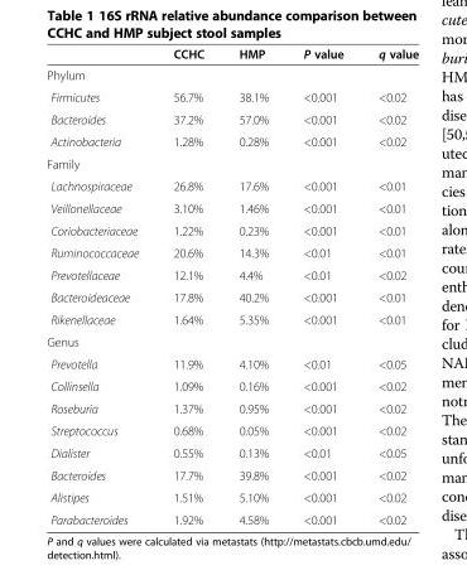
<table><thead><tr><td></td><td>CCHC</td><td>HMP</td><td>P value</td><td>q value</td></tr></thead><tbody><tr><td colspan="5">Phylum</td></tr><tr><td>Firmicutes</td><td>56.7%</td><td>38.1%</td><td>&lt;0.001</td><td>&lt;0.02</td></tr><tr><td>Bacteroides</td><td>37.2%</td><td>57.0%</td><td>&lt;0.001</td><td>&lt;0.02</td></tr><tr><td>Actinobacteria</td><td>1.28%</td><td>0.28%</td><td>&lt;0.001</td><td>&lt;0.02</td></tr><tr><td colspan="5">Family</td></tr><tr><td>Lachnospiraceae</td><td>26.8%</td><td>17.6%</td><td>&lt;0.001</td><td>&lt;0.01</td></tr><tr><td>Veillonellaceae</td><td>3.10%</td><td>1.46%</td><td>&lt;0.001</td><td>&lt;0.01</td></tr><tr><td>Coriobacteriaceae</td><td>1.22%</td><td>0.23%</td><td>&lt;0.001</td><td>&lt;0.01</td></tr><tr><td>Ruminococcaceae</td><td>20.6%</td><td>14.3%</td><td>&lt;0.01</td><td>&lt;0.01</td></tr><tr><td>Prevotellaceae</td><td>12.1%</td><td>4.4%</td><td>&lt;0.01</td><td>&lt;0.02</td></tr><tr><td>Bacteroideaceae</td><td>17.8%</td><td>40.2%</td><td>&lt;0.001</td><td>&lt;0.01</td></tr><tr><td>Rikenellaceae</td><td>1.64%</td><td>5.35%</td><td>&lt;0.001</td><td>&lt;0.01</td></tr><tr><td colspan="5">Genus</td></tr><tr><td>Prevotella</td><td>11.9%</td><td>4.10%</td><td>&lt;0.01</td><td>&lt;0.05</td></tr><tr><td>Collinsella</td><td>1.09%</td><td>0.16%</td><td>&lt;0.001</td><td>&lt;0.02</td></tr><tr><td>Roseburia</td><td>1.37%</td><td>0.95%</td><td>&lt;0.001</td><td>&lt;0.02</td></tr><tr><td>Streptococcus</td><td>0.68%</td><td>0.05%</td><td>&lt;0.001</td><td>&lt;0.02</td></tr><tr><td>Dialister</td><td>0.55%</td><td>0.13%</td><td>&lt;0.01</td><td>&lt;0.05</td></tr><tr><td>Bacteroides</td><td>17.7%</td><td>39.8%</td><td>&lt;0.001</td><td>&lt;0.02</td></tr><tr><td>Alistipes</td><td>1.51%</td><td>5.10%</td><td>&lt;0.001</td><td>&lt;0.02</td></tr><tr><td>Parabacteroides</td><td>1.92%</td><td>4.58%</td><td>&lt;0.001</td><td>&lt;0.02</td></tr></tbody></table>